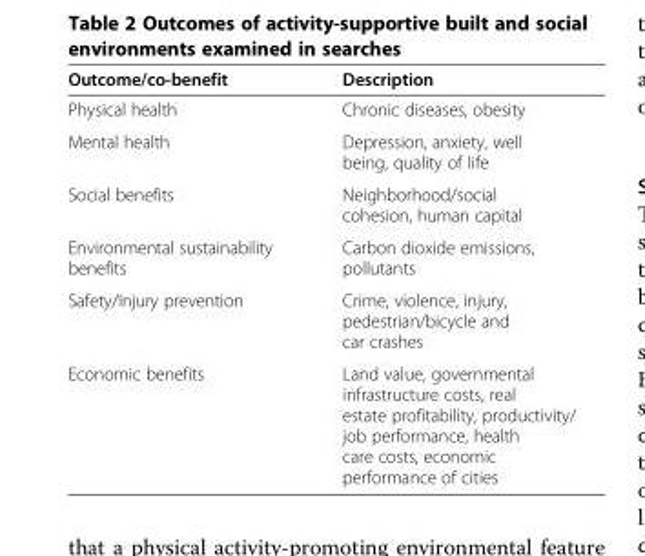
<table><thead><tr><td>Outcome/co-benefit</td><td>Description</td></tr></thead><tbody><tr><td>Physical health</td><td>Chronic diseases, obesity</td></tr><tr><td>Mental health</td><td>Depression, anxiety, well being, quality of life</td></tr><tr><td>Social benefits</td><td>Neighborhood/social cohesion, human capital</td></tr><tr><td>Environmental sustainability benefits</td><td>Carbon dioxide emissions, pollutants</td></tr><tr><td>Safety/Injury prevention</td><td>Crime, violence, injury, pedestrian/bicycle and car crashes</td></tr><tr><td>Economic benefits</td><td>Land value, governmental infrastructure costs, real estate profitability, productivity/ job performance, health care costs, economic performance of cities</td></tr></tbody></table>